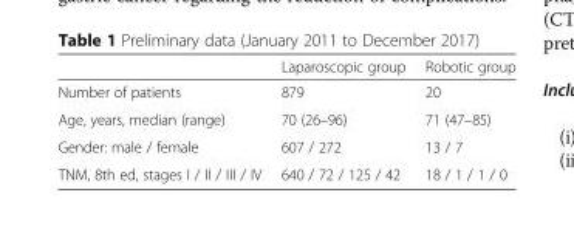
<table><thead><tr><td></td><td>Laparoscopic group</td><td>Robotic group</td></tr></thead><tbody><tr><td>Number of patients</td><td>879</td><td>20</td></tr><tr><td>Age, years, median (range)</td><td>70 (26–96)</td><td>71 (47–85)</td></tr><tr><td>Gender: male / female</td><td>607 / 272</td><td>13 / 7</td></tr><tr><td>TNM, 8th ed, stages I / II / III / IV</td><td>640 / 72 / 125 / 42</td><td>18 / 1 / 1 / 0</td></tr></tbody></table>